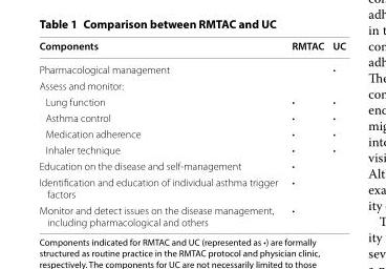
<table><thead><tr><td>Components</td><td>RMTAC</td><td>UC</td></tr></thead><tbody><tr><td>Pharmacological management</td><td></td><td>•</td></tr><tr><td colspan="3">Assess and monitor:</td></tr><tr><td>Lung function</td><td>•</td><td>•</td></tr><tr><td>Asthma control</td><td>•</td><td>•</td></tr><tr><td>Medication adherence</td><td>•</td><td>•</td></tr><tr><td>Inhaler technique</td><td>•</td><td>•</td></tr><tr><td>Education on the disease and self-management</td><td>•</td><td></td></tr><tr><td>Identification and education of individual asthma trigger factors</td><td>•</td><td></td></tr><tr><td>Monitor and detect issues on the disease management, including pharmacological and others</td><td>•</td><td></td></tr></tbody></table>